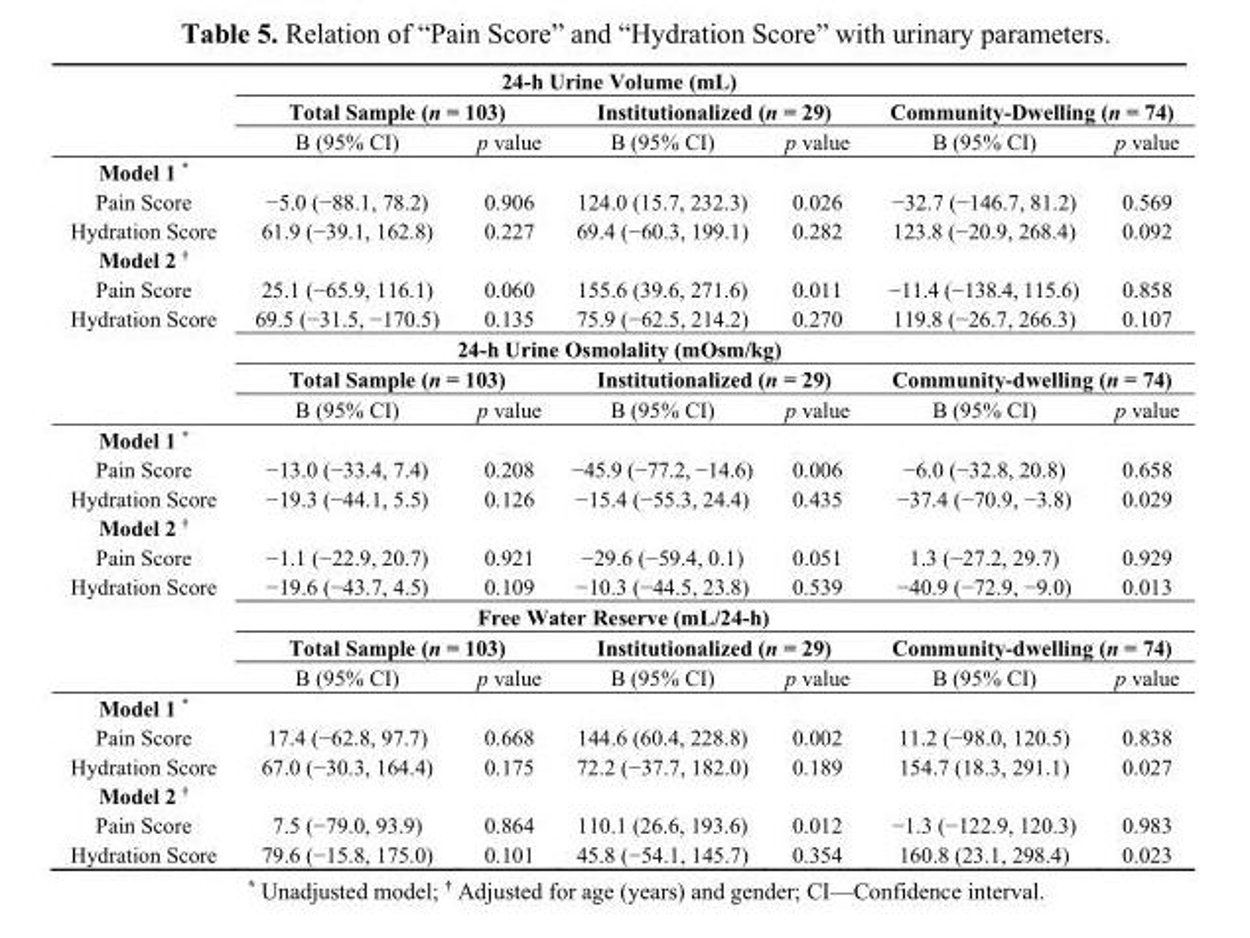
<table><tbody><tr><td colspan="7">24-h Urine Volume (mL)</td></tr><tr><td rowspan="2"></td><td colspan="2">Total Sample (n = 103)</td><td colspan="2">Institutionalized (n = 29)</td><td colspan="2">Community-Dwelling (n = 74)</td></tr><tr><td>B (95% CI)</td><td>p value</td><td>B (95% CI)</td><td>p value</td><td>B (95% CI)</td><td>p value</td></tr><tr><td colspan="7">Model 1 *</td></tr><tr><td>Pain Score</td><td>−5.0 (−88.1, 78.2)</td><td>0.906</td><td>124.0 (15.7, 232.3)</td><td>0.026</td><td>−32.7 (−146.7, 81.2)</td><td>0.569</td></tr><tr><td>Hydration Score</td><td>61.9 (−39.1, 162.8)</td><td>0.227</td><td>69.4 (−60.3, 199.1)</td><td>0.282</td><td>123.8 (−20.9, 268.4)</td><td>0.092</td></tr><tr><td colspan="7">Model 2 <sup>†</sup></td></tr><tr><td>Pain Score</td><td>25.1 (−65.9, 116.1)</td><td>0.060</td><td>155.6 (39.6, 271.6)</td><td>0.011</td><td>−11.4 (−138.4, 115.6)</td><td>0.858</td></tr><tr><td>Hydration Score</td><td>69.5 (−31.5, −170.5)</td><td>0.135</td><td>75.9 (−62.5, 214.2)</td><td>0.270</td><td>119.8 (−26.7, 266.3)</td><td>0.107</td></tr><tr><td colspan="7">24-h Urine Osmolality (mOsm/kg)</td></tr><tr><td></td><td colspan="2">Total Sample (n = 103)</td><td colspan="2">Institutionalized (n = 29)</td><td colspan="2">Community-dwelling (n = 74)</td></tr><tr><td></td><td>B (95% CI)</td><td>p value</td><td>B (95% CI)</td><td>p value</td><td>B (95% CI)</td><td>p value</td></tr><tr><td colspan="7">Model 1 *</td></tr><tr><td>Pain Score</td><td>−13.0 (−33.4, 7.4)</td><td>0.208</td><td>−45.9 (−77.2, −14.6)</td><td>0.006</td><td>−6.0 (−32.8, 20.8)</td><td>0.658</td></tr><tr><td>Hydration Score</td><td>−19.3 (−44.1, 5.5)</td><td>0.126</td><td>−15.4 (−55.3, 24.4)</td><td>0.435</td><td>−37.4 (−70.9, −3.8)</td><td>0.029</td></tr><tr><td colspan="7">Model 2 <sup>†</sup></td></tr><tr><td>Pain Score</td><td>−1.1 (−22.9, 20.7)</td><td>0.921</td><td>−29.6 (−59.4, 0.1)</td><td>0.051</td><td>1.3 (−27.2, 29.7)</td><td>0.929</td></tr><tr><td>Hydration Score</td><td>−19.6 (−43.7, 4.5)</td><td>0.109</td><td>−10.3 (−44.5, 23.8)</td><td>0.539</td><td>−40.9 (−72.9, −9.0)</td><td>0.013</td></tr><tr><td colspan="7">Free Water Reserve (mL/24-h)</td></tr><tr><td></td><td colspan="2">Total Sample (n = 103)</td><td colspan="2">Institutionalized (n = 29)</td><td colspan="2">Community-dwelling (n = 74)</td></tr><tr><td></td><td>B (95% CI)</td><td>p value</td><td>B (95% CI)</td><td>p value</td><td>B (95% CI)</td><td>p value</td></tr><tr><td colspan="7">Model 1 *</td></tr><tr><td>Pain Score</td><td>17.4 (−62.8, 97.7)</td><td>0.668</td><td>144.6 (60.4, 228.8)</td><td>0.002</td><td>11.2 (−98.0, 120.5)</td><td>0.838</td></tr><tr><td>Hydration Score</td><td>67.0 (−30.3, 164.4)</td><td>0.175</td><td>72.2 (−37.7, 182.0)</td><td>0.189</td><td>154.7 (18.3, 291.1)</td><td>0.027</td></tr><tr><td colspan="7">Model 2 <sup>†</sup></td></tr><tr><td>Pain Score</td><td>7.5 (−79.0, 93.9)</td><td>0.864</td><td>110.1 (26.6, 193.6)</td><td>0.012</td><td>−1.3 (−122.9, 120.3)</td><td>0.983</td></tr><tr><td>Hydration Score</td><td>79.6 (−15.8, 175.0)</td><td>0.101</td><td>45.8 (−54.1, 145.7)</td><td>0.354</td><td>160.8 (23.1, 298.4)</td><td>0.023</td></tr></tbody></table>